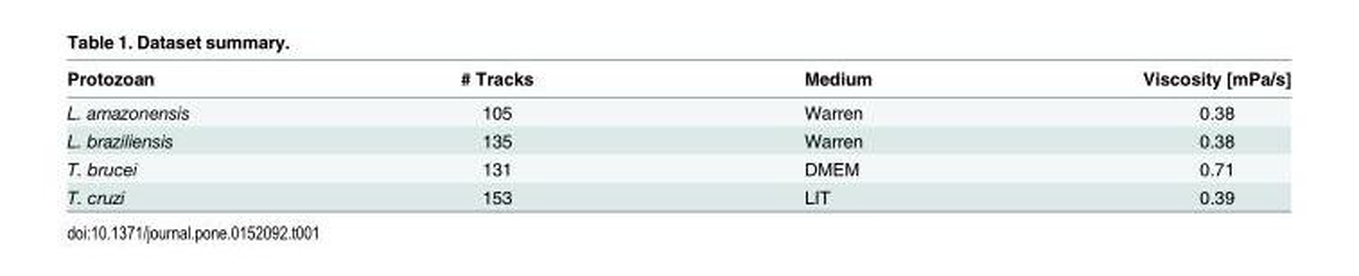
<table><thead><tr><td>Protozoan</td><td># Tracks</td><td>Medium</td><td>Viscosity [mPa/s]</td></tr></thead><tbody><tr><td>L. amazonensis</td><td>105</td><td>Warren</td><td>0.38</td></tr><tr><td>L. braziliensis</td><td>135</td><td>Warren</td><td>0.38</td></tr><tr><td>T. brucei</td><td>131</td><td>DMEM</td><td>0.71</td></tr><tr><td>T. cruzi</td><td>153</td><td>LIT</td><td>0.39</td></tr></tbody></table>